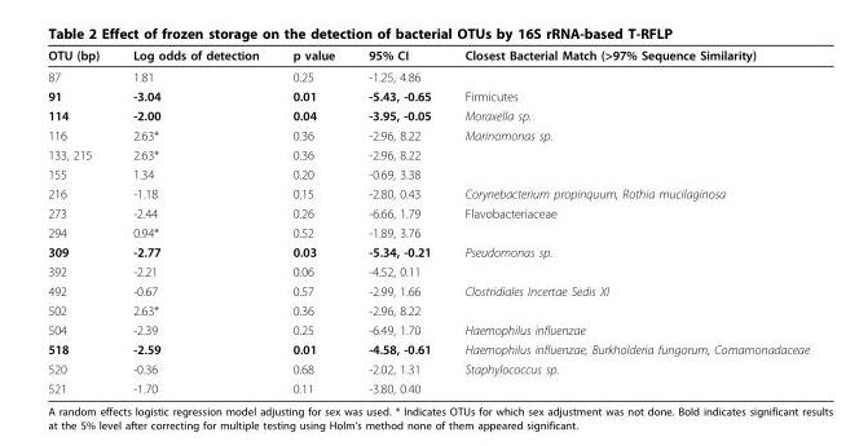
<table><thead><tr><td>OTU (bp)</td><td>Log odds of detection</td><td>p value</td><td>95% CI</td><td>Closest Bacterial Match (&gt;97% Sequence Similarity)</td></tr></thead><tbody><tr><td>87</td><td>1.81</td><td>0.25</td><td>-1.25, 4.86</td><td></td></tr><tr><td>91</td><td>-3.04</td><td>0.01</td><td>-5.43, -0.65</td><td>Firmicutes</td></tr><tr><td>114</td><td>-2.00</td><td>0.04</td><td>-3.95, -0.05</td><td>Moraxella sp.</td></tr><tr><td>116</td><td>2.63*</td><td>0.36</td><td>-2.96, 8.22</td><td>Marinomonas sp.</td></tr><tr><td>133, 215</td><td>2.63*</td><td>0.36</td><td>-2.96, 8.22</td><td></td></tr><tr><td>155</td><td>1.34</td><td>0.20</td><td>-0.69, 3.38</td><td></td></tr><tr><td>216</td><td>-1.18</td><td>0.15</td><td>-2.80, 0.43</td><td>Corynebacterium propinquum, Rothia mucilaginosa</td></tr><tr><td>273</td><td>-2.44</td><td>0.26</td><td>-6.66, 1.79</td><td>Flavobacteriaceae</td></tr><tr><td>294</td><td>0.94*</td><td>0.52</td><td>-1.89, 3.76</td><td></td></tr><tr><td>309</td><td>-2.77</td><td>0.03</td><td>-5.34, -0.21</td><td>Pseudomonas sp.</td></tr><tr><td>392</td><td>-2.21</td><td>0.06</td><td>-4.52, 0.11</td><td></td></tr><tr><td>492</td><td>-0.67</td><td>0.57</td><td>-2.99, 1.66</td><td>Clostridiales Incertae Sedis XI</td></tr><tr><td>502</td><td>2.63*</td><td>0.36</td><td>-2.96, 8.22</td><td></td></tr><tr><td>504</td><td>-2.39</td><td>0.25</td><td>-6.49, 1.70</td><td>Haemophilus influenzae</td></tr><tr><td>518</td><td>-2.59</td><td>0.01</td><td>-4.58, -0.61</td><td>Haemophilus influenzae, Burkholderia fungorum, Comamonadaceae</td></tr><tr><td>520</td><td>-0.36</td><td>0.68</td><td>-2.02, 1.31</td><td>Staphylococcus sp.</td></tr><tr><td>521</td><td>-1.70</td><td>0.11</td><td>-3.80, 0.40</td><td></td></tr></tbody></table>